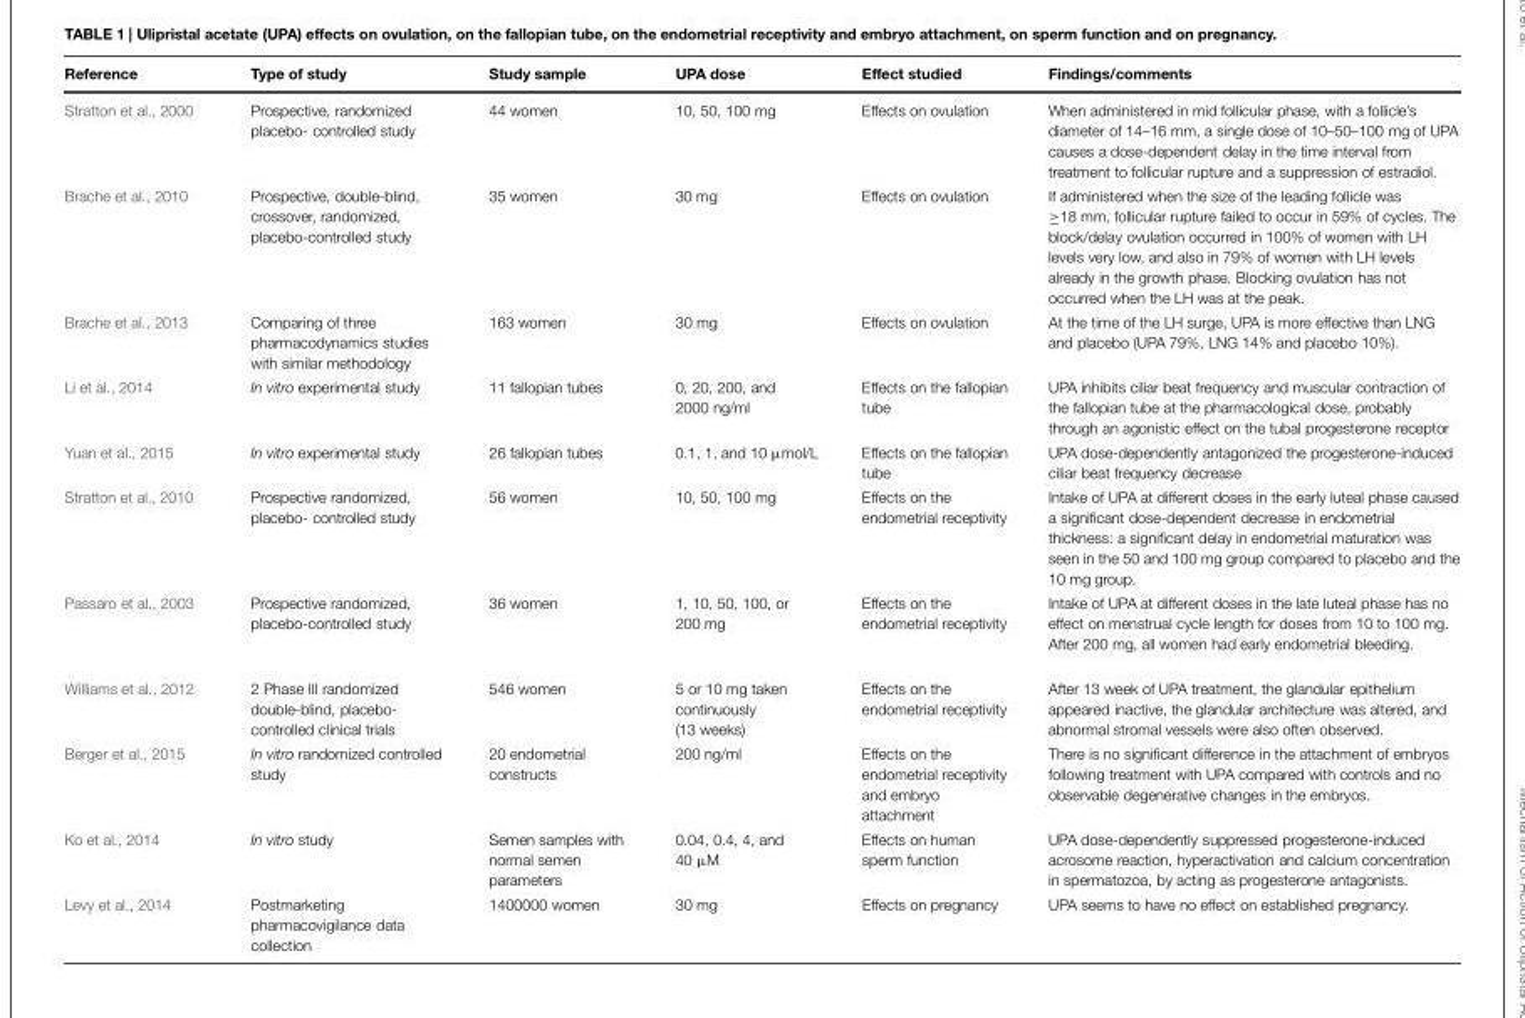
<table><thead><tr><td>Reference</td><td>Type of study</td><td>Study sample</td><td>UPA dose</td><td>Effect studied</td><td>Findings/comments</td></tr></thead><tbody><tr><td>Stratton et al., 2000</td><td>Prospective, randomized placebo- controlled study</td><td>44 women</td><td>10, 50, 100 mg</td><td>Effects on ovulation</td><td>When administered in mid follicular phase, with a follicle’s diameter of 14–16 mm, a single dose of 10–50–100 mg of UPA causes a dose-dependent delay in the time interval from treatment to follicular rupture and a suppression of estradiol.</td></tr><tr><td>Brache et al., 2010</td><td>Prospective, double-blind, crossover, randomized, placebo-controlled study</td><td>35 women</td><td>30 mg</td><td>Effects on ovulation</td><td>If administered when the size of the leading follicle was ≥18 mm, follicular rupture failed to occur in 59% of cycles. The block/delay ovulation occurred in 100% of women with LH levels very low, and also in 79% of women with LH levels already in the growth phase. Blocking ovulation has not occurred when the LH was at the peak.</td></tr><tr><td>Brache et al., 2013</td><td>Comparing of three pharmacodynamics studies with similar methodology</td><td>163 women</td><td>30 mg</td><td>Effects on ovulation</td><td>At the time of the LH surge, UPA is more effective than LNG and placebo (UPA 79%, LNG 14% and placebo 10%).</td></tr><tr><td>Li et al., 2014</td><td>In vitro experimental study</td><td>11 fallopian tubes</td><td>0, 20, 200, and 2000 ng/ml</td><td>Effects on the fallopian tube</td><td>UPA inhibits ciliar beat frequency and muscular contraction of the fallopian tube at the pharmacological dose, probably through an agonistic effect on the tubal progesterone receptor</td></tr><tr><td>Yuan et al., 2015</td><td>In vitro experimental study</td><td>26 fallopian tubes</td><td>0.1, 1, and 10 µmol/L</td><td>Effects on the fallopian tube</td><td>UPA dose-dependently antagonized the progesterone-induced ciliar beat frequency decrease</td></tr><tr><td>Stratton et al., 2010</td><td>Prospective randomized, placebo- controlled study</td><td>56 women</td><td>10, 50, 100 mg</td><td>Effects on the endometrial receptivity</td><td>Intake of UPA at different doses in the early luteal phase caused a significant dose-dependent decrease in endometrial thickness: a significant delay in endometrial maturation was seen in the 50 and 100 mg group compared to placebo and the 10 mg group.</td></tr><tr><td>Passaro et al., 2003</td><td>Prospective randomized, placebo-controlled study</td><td>36 women</td><td>1, 10, 50, 100, or 200 mg</td><td>Effects on the endometrial receptivity</td><td>Intake of UPA at different doses in the late luteal phase has no effect on menstrual cycle length for doses from 10 to 100 mg. After 200 mg, all women had early endometrial bleeding.</td></tr><tr><td>Williams et al., 2012</td><td>2 Phase III randomized double-blind, placebo- controlled clinical trials</td><td>546 women</td><td>5 or 10 mg taken continuously (13 weeks)</td><td>Effects on the endometrial receptivity</td><td>After 13 week of UPA treatment, the glandular epithelium appeared inactive, the glandular architecture was altered, and abnormal stromal vessels were also often observed.</td></tr><tr><td>Berger et al., 2015</td><td>In vitro randomized controlled study</td><td>20 endometrial constructs</td><td>200 ng/ml</td><td>Effects on the endometrial receptivity and embryo attachment</td><td>There is no significant difference in the attachment of embryos following treatment with UPA compared with controls and no observable degenerative changes in the embryos.</td></tr><tr><td>Ko et al., 2014</td><td>In vitro study</td><td>Semen samples with normal semen parameters</td><td>0.04, 0.4, 4, and 40 µM</td><td>Effects on human sperm function</td><td>UPA dose-dependently suppressed progesterone-induced acrosome reaction, hyperactivation and calcium concentration in spermatozoa, by acting as progesterone antagonists.</td></tr><tr><td>Levy et al., 2014</td><td>Postmarketing pharmacovigilance data collection</td><td>1400000 women</td><td>30 mg</td><td>Effects on pregnancy</td><td>UPA seems to have no effect on established pregnancy.</td></tr></tbody></table>